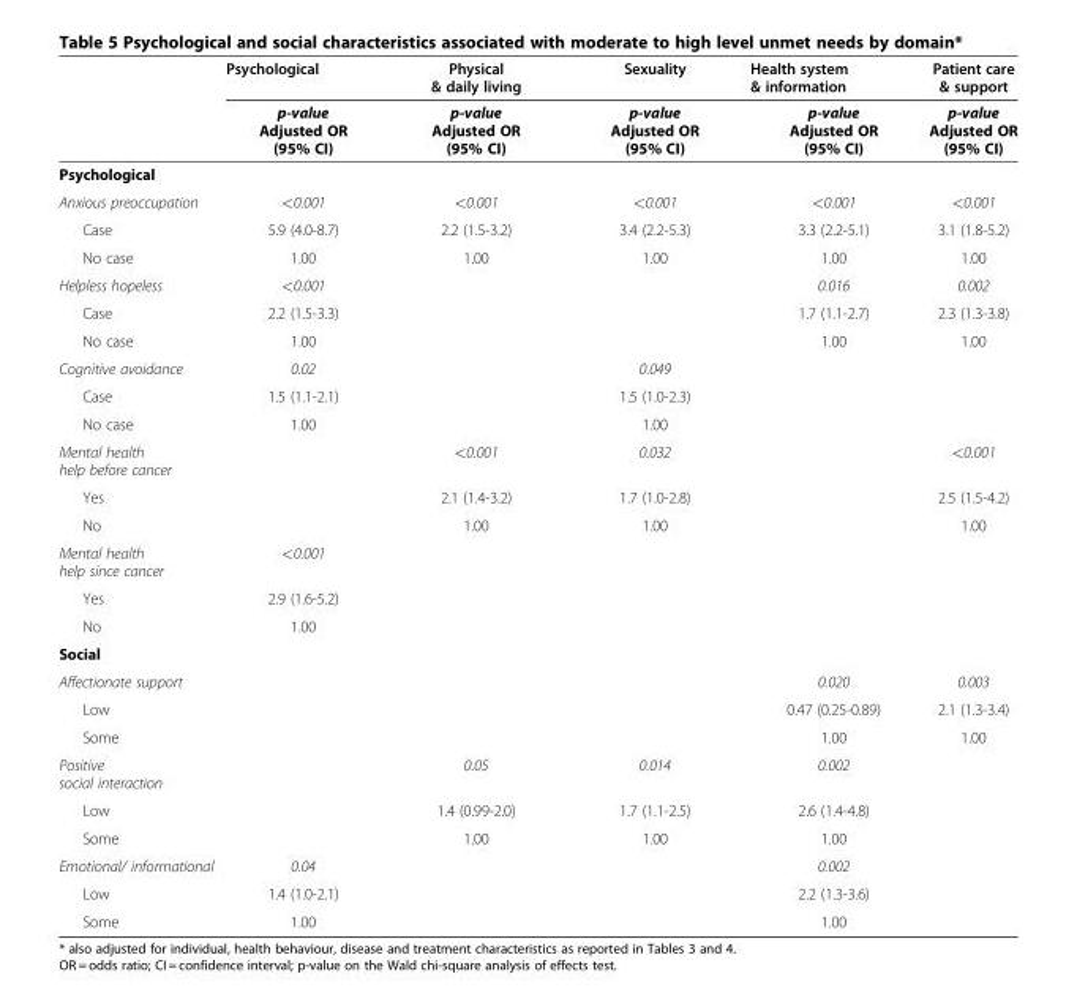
<table><thead><tr><td rowspan="2"></td><td rowspan="2">Psychological p-value Adjusted OR (95% CI)</td><td rowspan="2">Physical &amp; daily living p-value Adjusted OR (95% CI)</td><td rowspan="2">Sexuality p-value Adjusted OR (95% CI)</td><td rowspan="2">Health system &amp; information p-value Adjusted OR (95% CI)</td><td rowspan="2">Patient care &amp; support p-value Adjusted OR (95% CI)</td></tr><tr></tr></thead><tbody><tr><td colspan="6">Psychological</td></tr><tr><td>Anxious preoccupation</td><td>&lt;0.001</td><td>&lt;0.001</td><td>&lt;0.001</td><td>&lt;0.001</td><td>&lt;0.001</td></tr><tr><td>Case</td><td>5.9 (4.0-8.7)</td><td>2.2 (1.5-3.2)</td><td>3.4 (2.2-5.3)</td><td>3.3 (2.2-5.1)</td><td>3.1 (1.8-5.2)</td></tr><tr><td>No case</td><td>1.00</td><td>1.00</td><td>1.00</td><td>1.00</td><td>1.00</td></tr><tr><td>Helpless hopeless</td><td>&lt;0.001</td><td></td><td></td><td>0.016</td><td>0.002</td></tr><tr><td>Case</td><td>2.2 (1.5-3.3)</td><td></td><td></td><td>1.7 (1.1-2.7)</td><td>2.3 (1.3-3.8)</td></tr><tr><td>No case</td><td>1.00</td><td></td><td></td><td>1.00</td><td>1.00</td></tr><tr><td>Cognitive avoidance</td><td>0.02</td><td></td><td>0.049</td><td></td><td></td></tr><tr><td>Case</td><td>1.5 (1.1-2.1)</td><td></td><td>1.5 (1.0-2.3)</td><td></td><td></td></tr><tr><td>No case</td><td>1.00</td><td></td><td>1.00</td><td></td><td></td></tr><tr><td>Mental health help before cancer</td><td></td><td>&lt;0.001</td><td>0.032</td><td></td><td>&lt;0.001</td></tr><tr><td>Yes</td><td></td><td>2.1 (1.4-3.2)</td><td>1.7 (1.0-2.8)</td><td></td><td>2.5 (1.5-4.2)</td></tr><tr><td>No</td><td></td><td>1.00</td><td>1.00</td><td></td><td>1.00</td></tr><tr><td>Mental health help since cancer</td><td>&lt;0.001</td><td></td><td></td><td></td><td></td></tr><tr><td>Yes</td><td>2.9 (1.6-5.2)</td><td></td><td></td><td></td><td></td></tr><tr><td>No</td><td>1.00</td><td></td><td></td><td></td><td></td></tr><tr><td colspan="6">Social</td></tr><tr><td>Affectionate support</td><td></td><td></td><td></td><td>0.020</td><td>0.003</td></tr><tr><td>Low</td><td></td><td></td><td></td><td>0.47 (0.25-0.89)</td><td>2.1 (1.3-3.4)</td></tr><tr><td>Some</td><td></td><td></td><td></td><td>1.00</td><td>1.00</td></tr><tr><td>Positive social interaction</td><td></td><td>0.05</td><td>0.014</td><td>0.002</td><td></td></tr><tr><td>Low</td><td></td><td>1.4 (0.99-2.0)</td><td>1.7 (1.1-2.5)</td><td>2.6 (1.4-4.8)</td><td></td></tr><tr><td>Some</td><td></td><td>1.00</td><td>1.00</td><td>1.00</td><td></td></tr><tr><td>Emotional/ informational</td><td>0.04</td><td></td><td></td><td>0.002</td><td></td></tr><tr><td>Low</td><td>1.4 (1.0-2.1)</td><td></td><td></td><td>2.2 (1.3-3.6)</td><td></td></tr><tr><td>Some</td><td>1.00</td><td></td><td></td><td>1.00</td><td></td></tr></tbody></table>